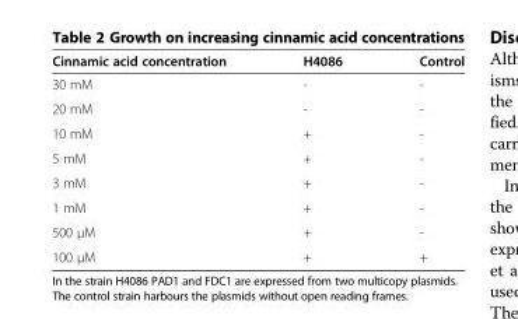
<table><thead><tr><td>Cinnamic acid concentration</td><td>H4086</td><td>Control</td></tr></thead><tbody><tr><td>30 mM</td><td>-</td><td>-</td></tr><tr><td>20 mM</td><td>-</td><td>-</td></tr><tr><td>10 mM</td><td>+</td><td>-</td></tr><tr><td>5 mM</td><td>+</td><td>-</td></tr><tr><td>3 mM</td><td>+</td><td>-</td></tr><tr><td>1 mM</td><td>+</td><td>-</td></tr><tr><td>500 μM</td><td>+</td><td>-</td></tr><tr><td>100 μM</td><td>+</td><td>+</td></tr></tbody></table>